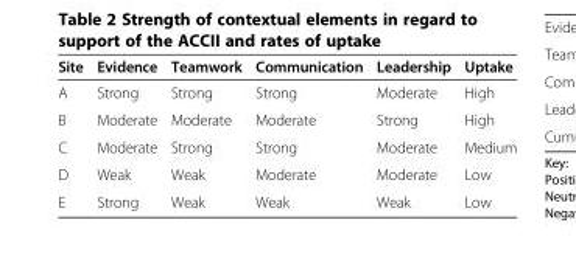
<table><thead><tr><td>Site</td><td>Evidence</td><td>Teamwork</td><td>Communication</td><td>Leadership</td><td>Uptake</td></tr></thead><tbody><tr><td>A</td><td>Strong</td><td>Strong</td><td>Strong</td><td>Moderate</td><td>High</td></tr><tr><td>B</td><td>Moderate</td><td>Moderate</td><td>Moderate</td><td>Strong</td><td>High</td></tr><tr><td>C</td><td>Moderate</td><td>Strong</td><td>Strong</td><td>Moderate</td><td>Medium</td></tr><tr><td>D</td><td>Weak</td><td>Weak</td><td>Moderate</td><td>Moderate</td><td>Low</td></tr><tr><td>E</td><td>Strong</td><td>Weak</td><td>Weak</td><td>Weak</td><td>Low</td></tr></tbody></table>